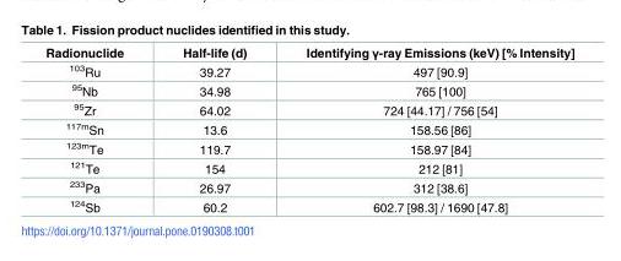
<table><thead><tr><td>Radionuclide</td><td>Half-life (d)</td><td>Identifying γ-ray Emissions (keV) [% Intensity]</td></tr></thead><tbody><tr><td><sup>103</sup>Ru</td><td>39.27</td><td>497 [90.9]</td></tr><tr><td><sup>95</sup>Nb</td><td>34.98</td><td>765 [100]</td></tr><tr><td><sup>95</sup>Zr</td><td>64.02</td><td>724 [44.17] / 756 [54]</td></tr><tr><td><sup>117m</sup>Sn</td><td>13.6</td><td>158.56 [86]</td></tr><tr><td><sup>123m</sup>Te</td><td>119.7</td><td>158.97 [84]</td></tr><tr><td><sup>121</sup>Te</td><td>154</td><td>212 [81]</td></tr><tr><td><sup>233</sup>Pa</td><td>26.97</td><td>312 [38.6]</td></tr><tr><td><sup>124</sup>Sb</td><td>60.2</td><td>602.7 [98.3] / 1690 [47.8]</td></tr></tbody></table>